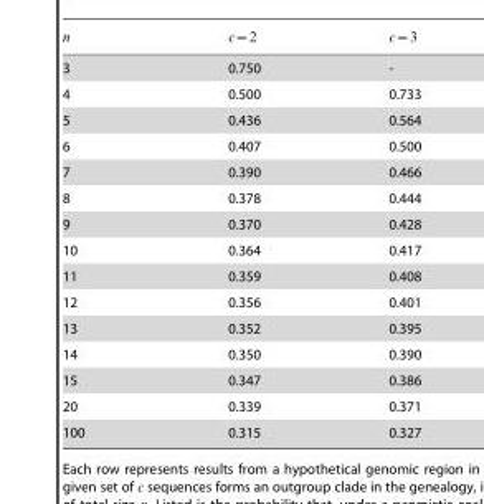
<table><tbody><tr><td>3</td><td>0.750</td><td>-</td></tr><tr><td>4</td><td>0.500</td><td>0.733</td></tr><tr><td>5</td><td>0.436</td><td>0.564</td></tr><tr><td>6</td><td>0.407</td><td>0.500</td></tr><tr><td>7</td><td>0.390</td><td>0.466</td></tr><tr><td>8</td><td>0.378</td><td>0.444</td></tr><tr><td>9</td><td>0.370</td><td>0.428</td></tr><tr><td>10</td><td>0.364</td><td>0.417</td></tr><tr><td>11</td><td>0.359</td><td>0.408</td></tr><tr><td>12</td><td>0.356</td><td>0.401</td></tr><tr><td>13</td><td>0.352</td><td>0.395</td></tr><tr><td>14</td><td>0.350</td><td>0.390</td></tr><tr><td>15</td><td>0.347</td><td>0.386</td></tr><tr><td>20</td><td>0.339</td><td>0.371</td></tr><tr><td>100</td><td>0.315</td><td>0.327</td></tr></tbody></table>